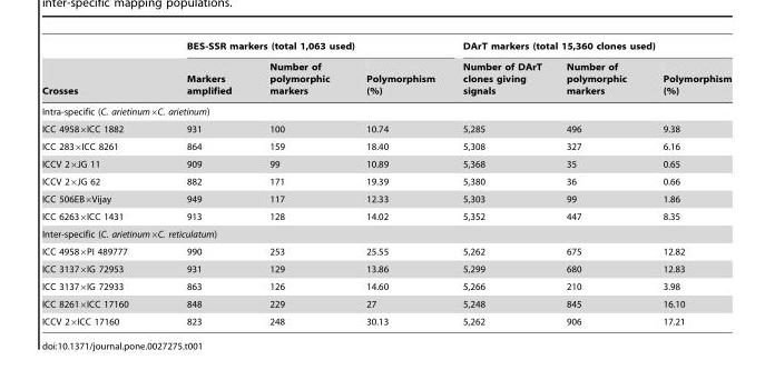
<table><thead><tr><td rowspan="2">Crosses</td><td colspan="3">BES-SSR markers (total 1,063 used)</td><td colspan="3">DArT markers (total 15,360 clones used)</td></tr><tr><td>Markers amplified</td><td>Number of polymorphic markers</td><td>Polymorphism (%)</td><td>Number of DArT clones giving signals</td><td>Number of polymorphic markers</td><td>Polymorphism (%)</td></tr></thead><tbody><tr><td colspan="7">Intra-specific (C. arietinum×C. arietinum)</td></tr><tr><td>ICC 4958×ICC 1882</td><td>931</td><td>100</td><td>10.74</td><td>5,285</td><td>496</td><td>9.38</td></tr><tr><td>ICC 283×ICC 8261</td><td>864</td><td>159</td><td>18.40</td><td>5,308</td><td>327</td><td>6.16</td></tr><tr><td>ICCV 2×JG 11</td><td>909</td><td>99</td><td>10.89</td><td>5,368</td><td>35</td><td>0.65</td></tr><tr><td>ICCV 2×JG 62</td><td>882</td><td>171</td><td>19.39</td><td>5,380</td><td>36</td><td>0.66</td></tr><tr><td>ICC 506EB×Vijay</td><td>949</td><td>117</td><td>12.33</td><td>5,303</td><td>99</td><td>1.86</td></tr><tr><td>ICC 6263×ICC 1431</td><td>913</td><td>128</td><td>14.02</td><td>5,352</td><td>447</td><td>8.35</td></tr><tr><td colspan="7">Inter-specific (C. arietinum×C. reticulatum)</td></tr><tr><td>ICC 4958×PI 489777</td><td>990</td><td>253</td><td>25.55</td><td>5,262</td><td>675</td><td>12.82</td></tr><tr><td>ICC 3137×IG 72953</td><td>931</td><td>129</td><td>13.86</td><td>5,299</td><td>680</td><td>12.83</td></tr><tr><td>ICC 3137×IG 72933</td><td>863</td><td>126</td><td>14.60</td><td>5,266</td><td>210</td><td>3.98</td></tr><tr><td>ICC 8261×ICC 17160</td><td>848</td><td>229</td><td>27</td><td>5,248</td><td>845</td><td>16.10</td></tr><tr><td>ICCV 2×ICC 17160</td><td>823</td><td>248</td><td>30.13</td><td>5,262</td><td>906</td><td>17.21</td></tr></tbody></table>